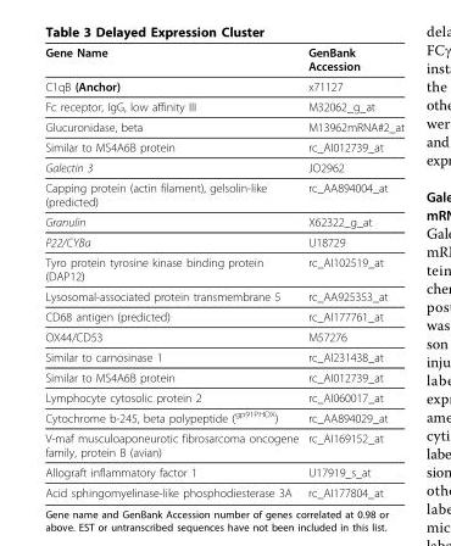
<table><thead><tr><td>Gene Name</td><td>GenBank Accession</td></tr></thead><tbody><tr><td>C1qB (Anchor)</td><td>x71127</td></tr><tr><td>Fc receptor, IgG, low affinity III</td><td>M32062_g_at</td></tr><tr><td>Glucuronidase, beta</td><td>M13962mRNA#2_at</td></tr><tr><td>Similar to MS4A6B protein</td><td>rc_AI012739_at</td></tr><tr><td>Galectin 3</td><td>JO2962</td></tr><tr><td>Capping protein (actin filament), gelsolin-like (predicted)</td><td>rc_AA894004_at</td></tr><tr><td>Granulin</td><td>X62322_g_at</td></tr><tr><td>P22/CYBa</td><td>U18729</td></tr><tr><td>Tyro protein tyrosine kinase binding protein (DAP12)</td><td>rc_AI102519_at</td></tr><tr><td>Lysosomal-associated protein transmembrane 5</td><td>rc_AA925353_at</td></tr><tr><td>CD68 antigen (predicted)</td><td>rc_AI177761_at</td></tr><tr><td>OX44/CD53</td><td>M57276</td></tr><tr><td>Similar to carnosinase 1</td><td>rc_AI231438_at</td></tr><tr><td>Similar to MS4A6B protein</td><td>rc_AI012739_at</td></tr><tr><td>Lymphocyte cytosolic protein 2</td><td>rc_AI060017_at</td></tr><tr><td>Cytochrome b-245, beta polypeptide (<sup>gp91PHOX</sup>)</td><td>rc_AA894029_at</td></tr><tr><td>V-maf musculoaponeurotic fibrosarcoma oncogene family, protein B (avian)</td><td>rc_AI169152_at</td></tr><tr><td>Allograft inflammatory factor 1</td><td>U17919_s_at</td></tr><tr><td>Acid sphingomyelinase-like phosphodiesterase 3A</td><td>rc_AI177804_at</td></tr></tbody></table>